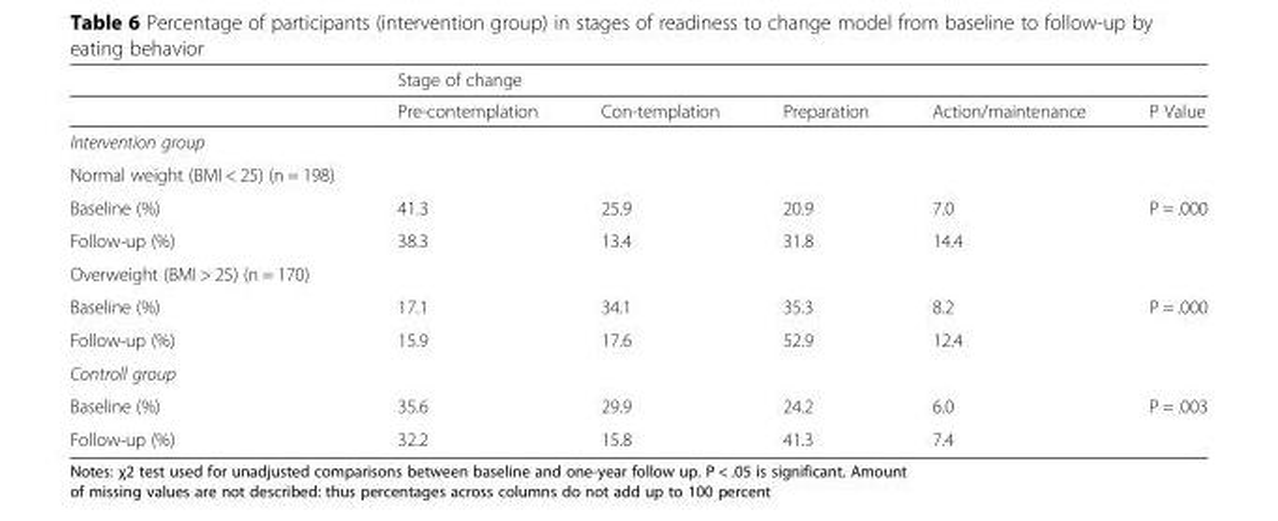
<table><thead><tr><td rowspan="2"></td><td colspan="5">Stage of change</td></tr><tr><td>Pre-contemplation</td><td>Con-templation</td><td>Preparation</td><td>Action/maintenance</td><td>P Value</td></tr></thead><tbody><tr><td colspan="6">Intervention group</td></tr><tr><td colspan="6">Normal weight (BMI &lt; 25) (n = 198)</td></tr><tr><td>Baseline (%)</td><td>41.3</td><td>25.9</td><td>20.9</td><td>7.0</td><td rowspan="2">P = .000</td></tr><tr><td>Follow-up (%)</td><td>38.3</td><td>13.4</td><td>31.8</td><td>14.4</td></tr><tr><td colspan="6">Overweight (BMI &gt; 25) (n = 170)</td></tr><tr><td>Baseline (%)</td><td>17.1</td><td>34.1</td><td>35.3</td><td>8.2</td><td rowspan="2">P = .000</td></tr><tr><td>Follow-up (%)</td><td>15.9</td><td>17.6</td><td>52.9</td><td>12.4</td></tr><tr><td colspan="6">Controll group</td></tr><tr><td>Baseline (%)</td><td>35.6</td><td>29.9</td><td>24.2</td><td>6.0</td><td rowspan="2">P = .003</td></tr><tr><td>Follow-up (%)</td><td>32.2</td><td>15.8</td><td>41.3</td><td>7.4</td></tr></tbody></table>